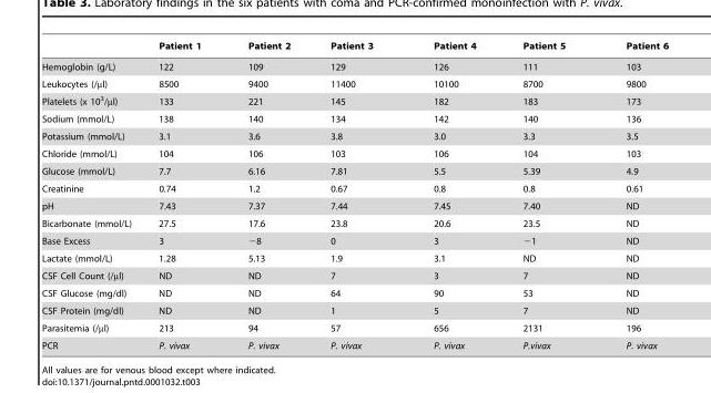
<table><thead><tr><td></td><td>Patient 1</td><td>Patient 2</td><td>Patient 3</td><td>Patient 4</td><td>Patient 5</td><td>Patient 6</td></tr></thead><tbody><tr><td>Hemoglobin (g/L)</td><td>122</td><td>109</td><td>129</td><td>126</td><td>111</td><td>103</td></tr><tr><td>Leukocytes (/µl)</td><td>8500</td><td>9400</td><td>11400</td><td>10100</td><td>8700</td><td>9800</td></tr><tr><td>Platelets (x 10<sup>3</sup>/µl)</td><td>133</td><td>221</td><td>145</td><td>182</td><td>183</td><td>173</td></tr><tr><td>Sodium (mmol/L)</td><td>138</td><td>140</td><td>134</td><td>142</td><td>140</td><td>136</td></tr><tr><td>Potassium (mmol/L)</td><td>3.1</td><td>3.6</td><td>3.8</td><td>3.0</td><td>3.3</td><td>3.5</td></tr><tr><td>Chloride (mmol/L)</td><td>104</td><td>106</td><td>103</td><td>106</td><td>104</td><td>103</td></tr><tr><td>Glucose (mmol/L)</td><td>7.7</td><td>6.16</td><td>7.81</td><td>5.5</td><td>5.39</td><td>4.9</td></tr><tr><td>Creatinine</td><td>0.74</td><td>1.2</td><td>0.67</td><td>0.8</td><td>0.8</td><td>0.61</td></tr><tr><td>pH</td><td>7.43</td><td>7.37</td><td>7.44</td><td>7.45</td><td>7.40</td><td>ND</td></tr><tr><td>Bicarbonate (mmol/L)</td><td>27.5</td><td>17.6</td><td>23.8</td><td>20.6</td><td>23.5</td><td>ND</td></tr><tr><td>Base Excess</td><td>3</td><td>−8</td><td>0</td><td>3</td><td>−1</td><td>ND</td></tr><tr><td>Lactate (mmol/L)</td><td>1.28</td><td>5.13</td><td>1.9</td><td>3.1</td><td>ND</td><td>ND</td></tr><tr><td>CSF Cell Count (/µl)</td><td>ND</td><td>ND</td><td>7</td><td>3</td><td>7</td><td>ND</td></tr><tr><td>CSF Glucose (mg/dl)</td><td>ND</td><td>ND</td><td>64</td><td>90</td><td>53</td><td>ND</td></tr><tr><td>CSF Protein (mg/dl)</td><td>ND</td><td>ND</td><td>1</td><td>5</td><td>7</td><td>ND</td></tr><tr><td>Parasitemia (/µl)</td><td>213</td><td>94</td><td>57</td><td>656</td><td>2131</td><td>196</td></tr><tr><td>PCR</td><td>P. vivax</td><td>P. vivax</td><td>P. vivax</td><td>P. vivax</td><td>P.vivax</td><td>P. vivax</td></tr></tbody></table>